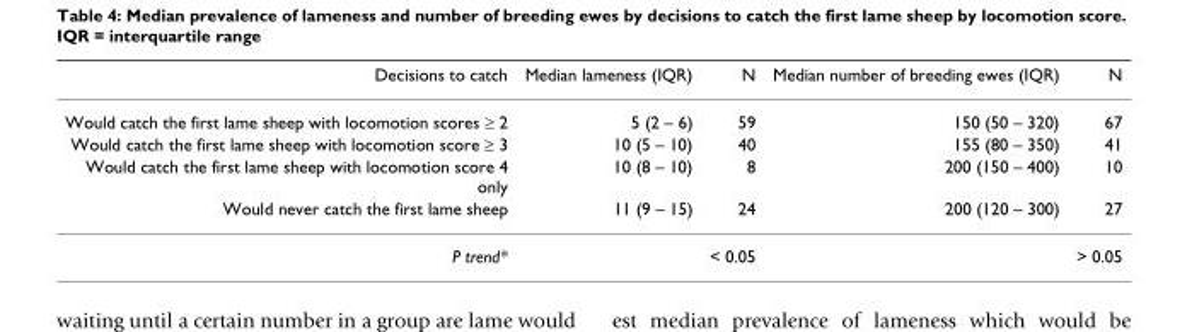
<table><thead><tr><td>Decisions to catch</td><td>Median lameness (IQR)</td><td>N</td><td>Median number of breeding ewes (IQR)</td><td>N</td></tr></thead><tbody><tr><td>Would catch the first lame sheep with locomotion scores ≥ 2</td><td>5 (2 – 6)</td><td>59</td><td>150 (50 – 320)</td><td>67</td></tr><tr><td>Would catch the first lame sheep with locomotion score ≥ 3</td><td>10 (5 – 10)</td><td>40</td><td>155 (80 – 350)</td><td>41</td></tr><tr><td>Would catch the first lame sheep with locomotion score 4 only</td><td>10 (8 – 10)</td><td>8</td><td>200 (150 – 400)</td><td>10</td></tr><tr><td>Would never catch the first lame sheep</td><td>11 (9 – 15)</td><td>24</td><td>200 (120 – 300)</td><td>27</td></tr><tr><td>P trend*</td><td></td><td>&lt; 0.05</td><td></td><td>&gt; 0.05</td></tr></tbody></table>